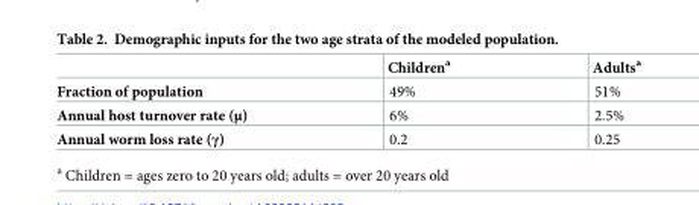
<table><thead><tr><td></td><td>Children<sup>a</sup></td><td>Adults<sup>a</sup></td></tr></thead><tbody><tr><td>Fraction of population</td><td>49%</td><td>51%</td></tr><tr><td>Annual host turnover rate (μ)</td><td>6%</td><td>2.5%</td></tr><tr><td>Annual worm loss rate (γ)</td><td>0.2</td><td>0.25</td></tr></tbody></table>